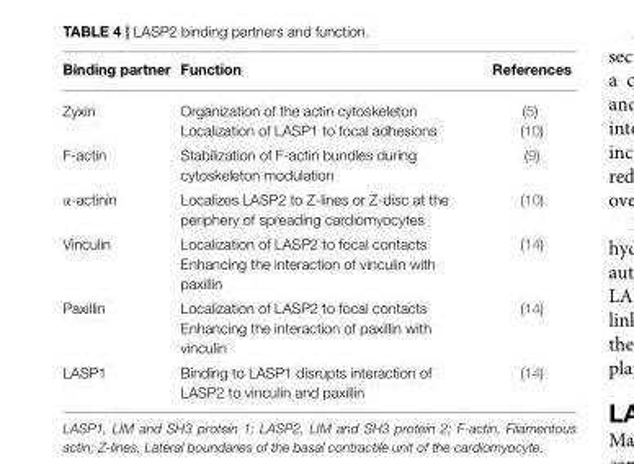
<table><thead><tr><td>Binding partner</td><td>Function</td><td>References</td></tr></thead><tbody><tr><td>Zyxin</td><td>Organization of the actin cytoskeleton Localization of LASP1 to focal adhesions</td><td>(5) (10)</td></tr><tr><td>F-actin</td><td>Stabilization of F-actin bundles during cytoskeleton modulation</td><td>(9)</td></tr><tr><td>α-actinin</td><td>Localizes LASP2 to Z-lines or Z-disc at the periphery of spreading cardiomyocytes</td><td>(10)</td></tr><tr><td>Vinculin</td><td>Localization of LASP2 to focal contacts Enhancing the interaction of vinculin with paxillin</td><td>(14)</td></tr><tr><td>Paxillin</td><td>Localization of LASP2 to focal contacts Enhancing the interaction of paxillin with vinculin</td><td>(14)</td></tr><tr><td>LASP1</td><td>Binding to LASP1 disrupts interaction of LASP2 to vinculin and paxillin</td><td>(14)</td></tr></tbody></table>